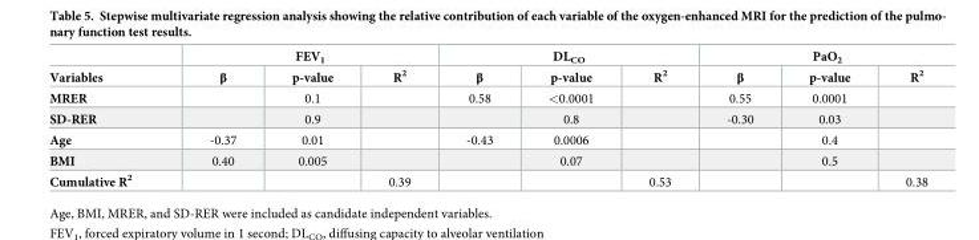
<table><thead><tr><td rowspan="2">Variables</td><td colspan="3">FEV<sub>1</sub></td><td colspan="3">DL<sub>CO</sub></td><td colspan="3">PaO<sub>2</sub></td></tr><tr><td>β</td><td>p-value</td><td>R<sup>2</sup></td><td>β</td><td>p-value</td><td>R<sup>2</sup></td><td>β</td><td>p-value</td><td>R<sup>2</sup></td></tr></thead><tbody><tr><td>MRER</td><td></td><td>0.1</td><td></td><td>0.58</td><td>&lt;0.0001</td><td></td><td>0.55</td><td>0.0001</td><td></td></tr><tr><td>SD-RER</td><td></td><td>0.9</td><td></td><td></td><td>0.8</td><td></td><td>-0.30</td><td>0.03</td><td></td></tr><tr><td>Age</td><td>-0.37</td><td>0.01</td><td></td><td>-0.43</td><td>0.0006</td><td></td><td></td><td>0.4</td><td></td></tr><tr><td>BMI</td><td>0.40</td><td>0.005</td><td></td><td></td><td>0.07</td><td></td><td></td><td>0.5</td><td></td></tr><tr><td>Cumulative R<sup>2</sup></td><td></td><td></td><td>0.39</td><td></td><td></td><td>0.53</td><td></td><td></td><td>0.38</td></tr></tbody></table>